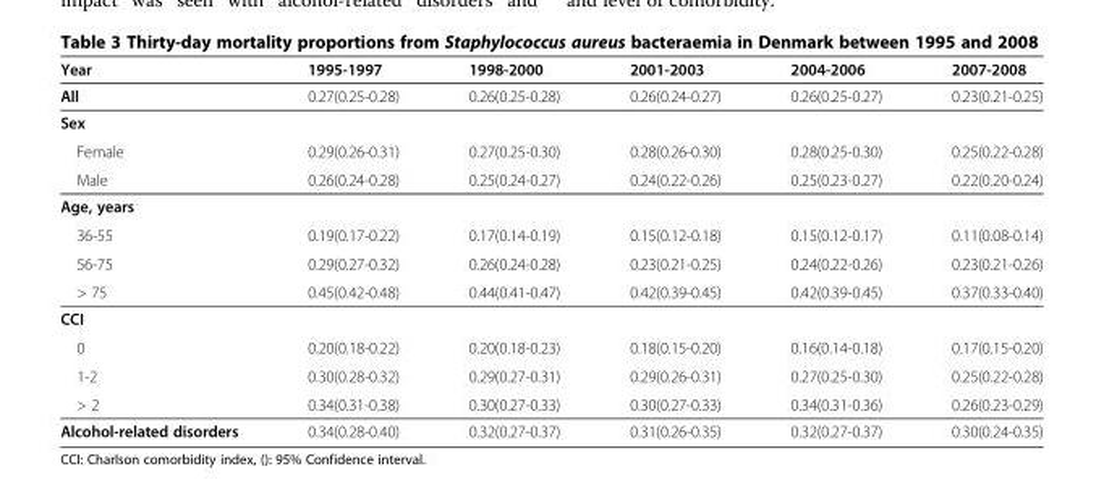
<table><thead><tr><td>Year</td><td>1995-1997</td><td>1998-2000</td><td>2001-2003</td><td>2004-2006</td><td>2007-2008</td></tr></thead><tbody><tr><td>All</td><td>0.27(0.25-0.28)</td><td>0.26(0.25-0.28)</td><td>0.26(0.24-0.27)</td><td>0.26(0.25-0.27)</td><td>0.23(0.21-0.25)</td></tr><tr><td colspan="6">Sex</td></tr><tr><td>Female</td><td>0.29(0.26-0.31)</td><td>0.27(0.25-0.30)</td><td>0.28(0.26-0.30)</td><td>0.28(0.25-0.30)</td><td>0.25(0.22-0.28)</td></tr><tr><td>Male</td><td>0.26(0.24-0.28)</td><td>0.25(0.24-0.27)</td><td>0.24(0.22-0.26)</td><td>0.25(0.23-0.27)</td><td>0.22(0.20-0.24)</td></tr><tr><td colspan="6">Age, years</td></tr><tr><td>36-55</td><td>0.19(0.17-0.22)</td><td>0.17(0.14-0.19)</td><td>0.15(0.12-0.18)</td><td>0.15(0.12-0.17)</td><td>0.11(0.08-0.14)</td></tr><tr><td>56-75</td><td>0.29(0.27-0.32)</td><td>0.26(0.24-0.28)</td><td>0.23(0.21-0.25)</td><td>0.24(0.22-0.26)</td><td>0.23(0.21-0.26)</td></tr><tr><td>&gt; 75</td><td>0.45(0.42-0.48)</td><td>0.44(0.41-0.47)</td><td>0.42(0.39-0.45)</td><td>0.42(0.39-0.45)</td><td>0.37(0.33-0.40)</td></tr><tr><td colspan="6">CCI</td></tr><tr><td>0</td><td>0.20(0.18-0.22)</td><td>0.20(0.18-0.23)</td><td>0.18(0.15-0.20)</td><td>0.16(0.14-0.18)</td><td>0.17(0.15-0.20)</td></tr><tr><td>1-2</td><td>0.30(0.28-0.32)</td><td>0.29(0.27-0.31)</td><td>0.29(0.26-0.31)</td><td>0.27(0.25-0.30)</td><td>0.25(0.22-0.28)</td></tr><tr><td>&gt; 2</td><td>0.34(0.31-0.38)</td><td>0.30(0.27-0.33)</td><td>0.30(0.27-0.33)</td><td>0.34(0.31-0.36)</td><td>0.26(0.23-0.29)</td></tr><tr><td>Alcohol-related disorders</td><td>0.34(0.28-0.40)</td><td>0.32(0.27-0.37)</td><td>0.31(0.26-0.35)</td><td>0.32(0.27-0.37)</td><td>0.30(0.24-0.35)</td></tr></tbody></table>